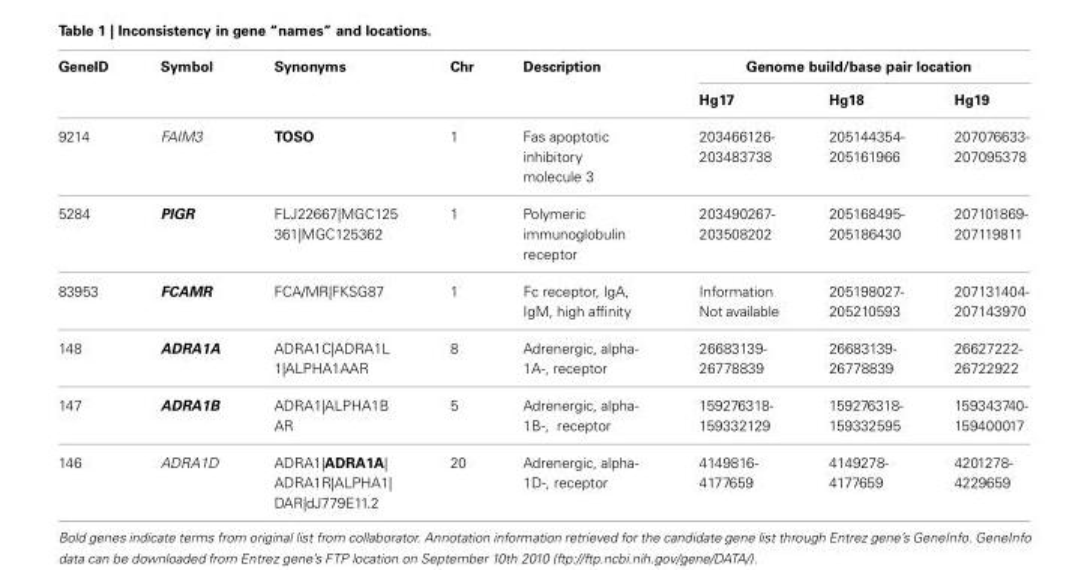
<table><thead><tr><td rowspan="2">GeneID</td><td rowspan="2">Symbol</td><td rowspan="2">Synonyms</td><td rowspan="2">Chr</td><td rowspan="2">Description</td><td colspan="3">Genome build/base pair location</td></tr><tr><td>Hg17</td><td>Hg18</td><td>Hg19</td></tr></thead><tbody><tr><td>9214</td><td>FAIM3</td><td>TOSO</td><td>1</td><td>Fas apoptotic inhibitory molecule 3</td><td>203466126- 203483738</td><td>205144354- 205161966</td><td>207076633- 207095378</td></tr><tr><td>5284</td><td>PIGR</td><td>FLJ22667|MGC125 361|MGC125362</td><td>1</td><td>Polymeric immunoglobulin receptor</td><td>203490267- 203508202</td><td>205168495- 205186430</td><td>207101869- 207119811</td></tr><tr><td>83953</td><td>FCAMR</td><td>FCA/MR|FKSG87</td><td>1</td><td>Fc receptor, IgA, IgM, high affinity</td><td>Information Not available</td><td>205198027- 205210593</td><td>207131404- 207143970</td></tr><tr><td>148</td><td>ADRA1A</td><td>ADRA1C|ADRA1L 1|ALPHA1AAR</td><td>8</td><td>Adrenergic, alpha- 1A-, receptor</td><td>26683139- 26778839</td><td>26683139- 26778839</td><td>26627222- 26722922</td></tr><tr><td>147</td><td>ADRA1B</td><td>ADRA1|ALPHA1B AR</td><td>5</td><td>Adrenergic, alpha- 1B-, receptor</td><td>159276318- 159332129</td><td>159276318- 159332595</td><td>159343740- 159400017</td></tr><tr><td>146</td><td>ADRA1D</td><td>ADRA1|ADRA1A| ADRA1R|ALPHA1| DAR|dJ779E11.2</td><td>20</td><td>Adrenergic, alpha- 1D-, receptor</td><td>4149816- 4177659</td><td>4149278- 4177659</td><td>4201278- 4229659</td></tr></tbody></table>